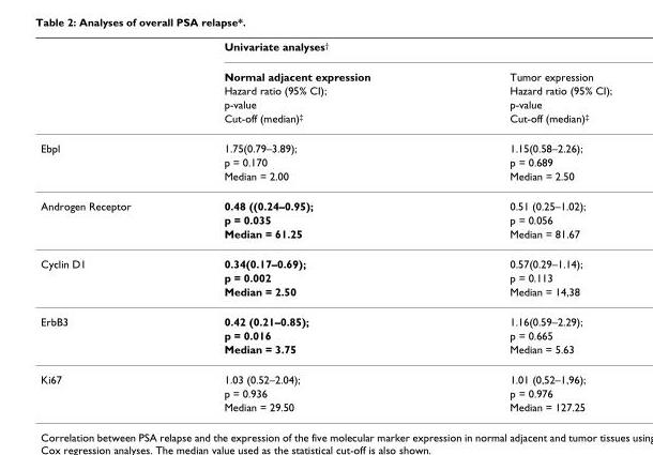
<table><thead><tr><td rowspan="5"></td><td colspan="2">Univariate analyses<sup>†</sup></td></tr><tr><td rowspan="4">Normal adjacent expression Hazard ratio (95% CI); p-value Cut-off (median)<sup>‡</sup></td><td rowspan="4">Tumor expression Hazard ratio (95% CI); p-value Cut-off (median)<sup>‡</sup></td></tr><tr></tr><tr></tr><tr></tr></thead><tbody><tr><td rowspan="3">Ebpl</td><td>1.75(0.79–3.89);</td><td>1.15(0.58–2.26);</td></tr><tr><td>p = 0.170</td><td>p = 0.689</td></tr><tr><td>Median = 2.00</td><td>Median = 2.50</td></tr><tr><td rowspan="3">Androgen Receptor</td><td>0.48 ((0.24–0.95);</td><td>0.51 (0.25–1.02);</td></tr><tr><td>p = 0.035</td><td>p = 0.056</td></tr><tr><td>Median = 61.25</td><td>Median = 81.67</td></tr><tr><td rowspan="3">Cyclin D1</td><td>0.34(0.17–0.69);</td><td>0.57(0.29–1.14);</td></tr><tr><td>p = 0.002</td><td>p = 0.113</td></tr><tr><td>Median = 2.50</td><td>Median = 14,38</td></tr><tr><td rowspan="3">ErbB3</td><td>0.42 (0.21–0.85);</td><td>1.16(0.59–2.29);</td></tr><tr><td>p = 0.016</td><td>p = 0.665</td></tr><tr><td>Median = 3.75</td><td>Median = 5.63</td></tr><tr><td rowspan="3">Ki67</td><td>1.03 (0.52–2.04);</td><td>1.01 (0,52–1,96);</td></tr><tr><td>p = 0.936</td><td>p = 0.976</td></tr><tr><td>Median = 29.50</td><td>Median = 127.25</td></tr></tbody></table>